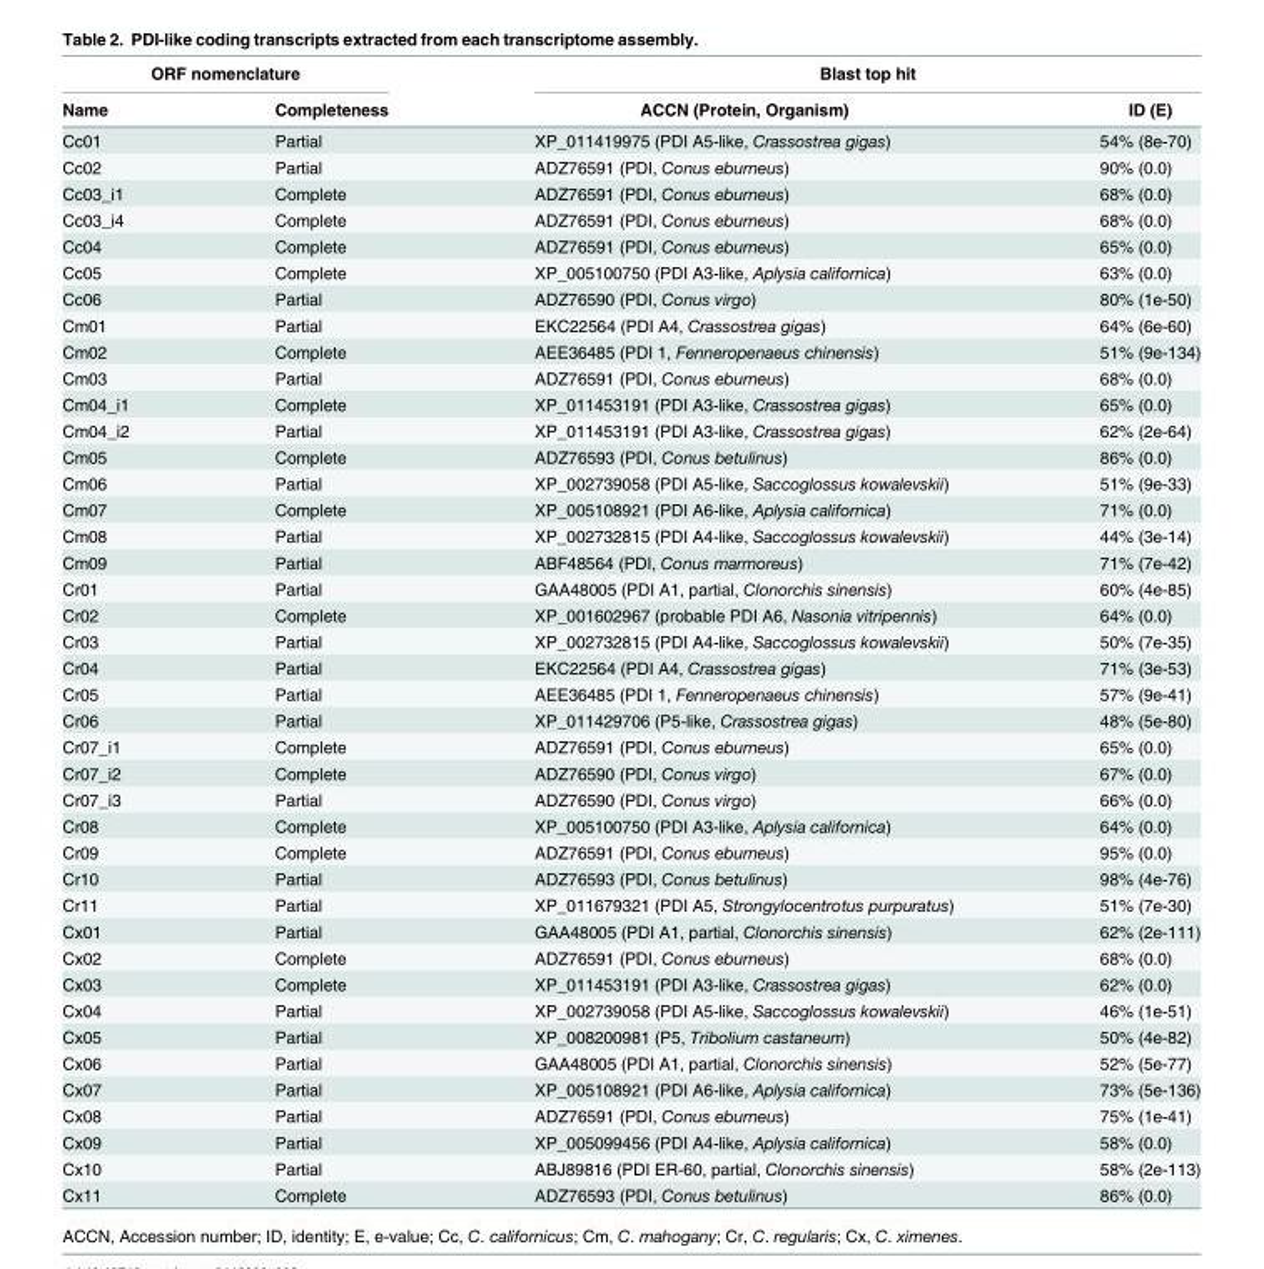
<table><thead><tr><td colspan="2">ORF nomenclature</td><td colspan="2">Blast top hit</td></tr><tr><td>Name</td><td>Completeness</td><td>ACCN (Protein, Organism)</td><td>ID (E)</td></tr></thead><tbody><tr><td>Cc01</td><td>Partial</td><td>XP_011419975 (PDI A5-like, Crassostrea gigas)</td><td>54% (8e-70)</td></tr><tr><td>Cc02</td><td>Partial</td><td>ADZ76591 (PDI, Conus eburneus)</td><td>90% (0.0)</td></tr><tr><td>Cc03_i1</td><td>Complete</td><td>ADZ76591 (PDI, Conus eburneus)</td><td>68% (0.0)</td></tr><tr><td>Cc03_i4</td><td>Complete</td><td>ADZ76591 (PDI, Conus eburneus)</td><td>68% (0.0)</td></tr><tr><td>Cc04</td><td>Complete</td><td>ADZ76591 (PDI, Conus eburneus)</td><td>65% (0.0)</td></tr><tr><td>Cc05</td><td>Complete</td><td>XP_005100750 (PDI A3-like, Aplysia californica)</td><td>63% (0.0)</td></tr><tr><td>Cc06</td><td>Partial</td><td>ADZ76590 (PDI, Conus virgo)</td><td>80% (1e-50)</td></tr><tr><td>Cm01</td><td>Partial</td><td>EKC22564 (PDI A4, Crassostrea gigas)</td><td>64% (6e-60)</td></tr><tr><td>Cm02</td><td>Complete</td><td>AEE36485 (PDI 1, Fenneropenaeus chinensis)</td><td>51% (9e-134)</td></tr><tr><td>Cm03</td><td>Partial</td><td>ADZ76591 (PDI, Conus eburneus)</td><td>68% (0.0)</td></tr><tr><td>Cm04_i1</td><td>Complete</td><td>XP_011453191 (PDI A3-like, Crassostrea gigas)</td><td>65% (0.0)</td></tr><tr><td>Cm04_i2</td><td>Partial</td><td>XP_011453191 (PDI A3-like, Crassostrea gigas)</td><td>62% (2e-64)</td></tr><tr><td>Cm05</td><td>Complete</td><td>ADZ76593 (PDI, Conus betulinus)</td><td>86% (0.0)</td></tr><tr><td>Cm06</td><td>Partial</td><td>XP_002739058 (PDI A5-like, Saccoglossus kowalevskii)</td><td>51% (9e-33)</td></tr><tr><td>Cm07</td><td>Complete</td><td>XP_005108921 (PDI A6-like, Aplysia californica)</td><td>71% (0.0)</td></tr><tr><td>Cm08</td><td>Partial</td><td>XP_002732815 (PDI A4-like, Saccoglossus kowalevskii)</td><td>44% (3e-14)</td></tr><tr><td>Cm09</td><td>Partial</td><td>ABF48564 (PDI, Conus marmoreus)</td><td>71% (7e-42)</td></tr><tr><td>Cr01</td><td>Partial</td><td>GAA48005 (PDI A1, partial, Clonorchis sinensis)</td><td>60% (4e-85)</td></tr><tr><td>Cr02</td><td>Complete</td><td>XP_001602967 (probable PDI A6, Nasonia vitripennis)</td><td>64% (0.0)</td></tr><tr><td>Cr03</td><td>Partial</td><td>XP_002732815 (PDI A4-like, Saccoglossus kowalevskii)</td><td>50% (7e-35)</td></tr><tr><td>Cr04</td><td>Partial</td><td>EKC22564 (PDI A4, Crassostrea gigas)</td><td>71% (3e-53)</td></tr><tr><td>Cr05</td><td>Partial</td><td>AEE36485 (PDI 1, Fenneropenaeus chinensis)</td><td>57% (9e-41)</td></tr><tr><td>Cr06</td><td>Partial</td><td>XP_011429706 (P5-like, Crassostrea gigas)</td><td>48% (5e-80)</td></tr><tr><td>Cr07_i1</td><td>Complete</td><td>ADZ76591 (PDI, Conus eburneus)</td><td>65% (0.0)</td></tr><tr><td>Cr07_i2</td><td>Complete</td><td>ADZ76590 (PDI, Conus virgo)</td><td>67% (0.0)</td></tr><tr><td>Cr07_i3</td><td>Partial</td><td>ADZ76590 (PDI, Conus virgo)</td><td>66% (0.0)</td></tr><tr><td>Cr08</td><td>Complete</td><td>XP_005100750 (PDI A3-like, Aplysia californica)</td><td>64% (0.0)</td></tr><tr><td>Cr09</td><td>Complete</td><td>ADZ76591 (PDI, Conus eburneus)</td><td>95% (0.0)</td></tr><tr><td>Cr10</td><td>Partial</td><td>ADZ76593 (PDI, Conus betulinus)</td><td>98% (4e-76)</td></tr><tr><td>Cr11</td><td>Partial</td><td>XP_011679321 (PDI A5, Strongylocentrotus purpuratus)</td><td>51% (7e-30)</td></tr><tr><td>Cx01</td><td>Partial</td><td>GAA48005 (PDI A1, partial, Clonorchis sinensis)</td><td>62% (2e-111)</td></tr><tr><td>Cx02</td><td>Complete</td><td>ADZ76591 (PDI, Conus eburneus)</td><td>68% (0.0)</td></tr><tr><td>Cx03</td><td>Complete</td><td>XP_011453191 (PDI A3-like, Crassostrea gigas)</td><td>62% (0.0)</td></tr><tr><td>Cx04</td><td>Partial</td><td>XP_002739058 (PDI A5-like, Saccoglossus kowalevskii)</td><td>46% (1e-51)</td></tr><tr><td>Cx05</td><td>Partial</td><td>XP_008200981 (P5, Tribolium castaneum)</td><td>50% (4e-82)</td></tr><tr><td>Cx06</td><td>Partial</td><td>GAA48005 (PDI A1, partial, Clonorchis sinensis)</td><td>52% (5e-77)</td></tr><tr><td>Cx07</td><td>Partial</td><td>XP_005108921 (PDI A6-like, Aplysia californica)</td><td>73% (5e-136)</td></tr><tr><td>Cx08</td><td>Partial</td><td>ADZ76591 (PDI, Conus eburneus)</td><td>75% (1e-41)</td></tr><tr><td>Cx09</td><td>Partial</td><td>XP_005099456 (PDI A4-like, Aplysia californica)</td><td>58% (0.0)</td></tr><tr><td>Cx10</td><td>Partial</td><td>ABJ89816 (PDI ER-60, partial, Clonorchis sinensis)</td><td>58% (2e-113)</td></tr><tr><td>Cx11</td><td>Complete</td><td>ADZ76593 (PDI, Conus betulinus)</td><td>86% (0.0)</td></tr></tbody></table>